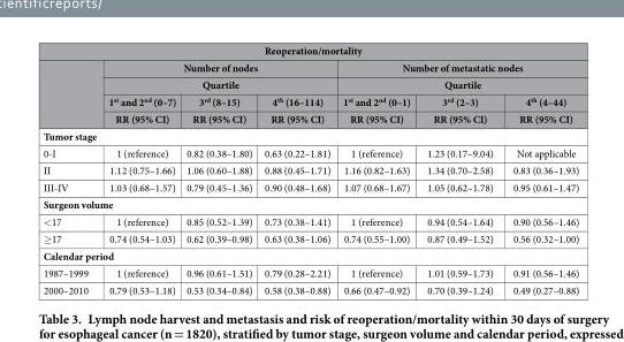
<table><thead><tr><td colspan="7">Reoperation/mortality</td></tr><tr><td rowspan="4"></td><td rowspan="2" colspan="3">Number of nodes Quartile</td><td rowspan="2" colspan="3">Number of metastatic nodes Quartile</td></tr><tr></tr><tr><td rowspan="2">1<sup>st</sup> and 2<sup>nd</sup> (0–7) RR (95% CI)</td><td rowspan="2">3<sup>rd</sup> (8–15) RR (95% CI)</td><td rowspan="2">4<sup>th</sup> (16–114) RR (95% CI)</td><td rowspan="2">1<sup>st</sup> and 2<sup>nd</sup> (0–1) RR (95% CI)</td><td rowspan="2">3<sup>rd</sup> (2–3) RR (95% CI)</td><td rowspan="2">4<sup>th</sup> (4–44) RR (95% CI)</td></tr><tr></tr></thead><tbody><tr><td colspan="7">Tumor stage</td></tr><tr><td>0-I</td><td>1 (reference)</td><td>0.82 (0.38–1.80)</td><td>0.63 (0.22–1.81)</td><td>1 (reference)</td><td>1.23 (0.17–9.04)</td><td>Not applicable</td></tr><tr><td>II</td><td>1.12 (0.75–1.66)</td><td>1.06 (0.60–1.88)</td><td>0.88 (0.45–1.71)</td><td>1.16 (0.82–1.63)</td><td>1.34 (0.70–2.58)</td><td>0.83 (0.36–1.93)</td></tr><tr><td>III-IV</td><td>1.03 (0.68–1.57)</td><td>0.79 (0.45–1.36)</td><td>0.90 (0.48–1.68)</td><td>1.07 (0.68–1.67)</td><td>1.05 (0.62–1.78)</td><td>0.95 (0.61–1.47)</td></tr><tr><td colspan="7">Surgeon volume</td></tr><tr><td>&lt; 17</td><td>1 (reference)</td><td>0.85 (0.52–1.39)</td><td>0.73 (0.38–1.41)</td><td>1 (reference)</td><td>0.94 (0.54–1.64)</td><td>0.90 (0.56–1.46)</td></tr><tr><td>≥ 17</td><td>0.74 (0.54–1.03)</td><td>0.62 (0.39–0.98)</td><td>0.63 (0.38–1.06)</td><td>0.74 (0.55–1.00)</td><td>0.87 (0.49–1.52)</td><td>0.56 (0.32–1.00)</td></tr><tr><td colspan="7">Calendar period</td></tr><tr><td>1987–1999</td><td>1 (reference)</td><td>0.96 (0.61–1.51)</td><td>0.79 (0.28–2.21)</td><td>1 (reference)</td><td>1.01 (0.59–1.73)</td><td>0.91 (0.56–1.46)</td></tr><tr><td>2000–2010</td><td>0.79 (0.53–1.18)</td><td>0.53 (0.34–0.84)</td><td>0.58 (0.38–0.88)</td><td>0.66 (0.47–0.92)</td><td>0.70 (0.39–1.24)</td><td>0.49 (0.27–0.88)</td></tr></tbody></table>